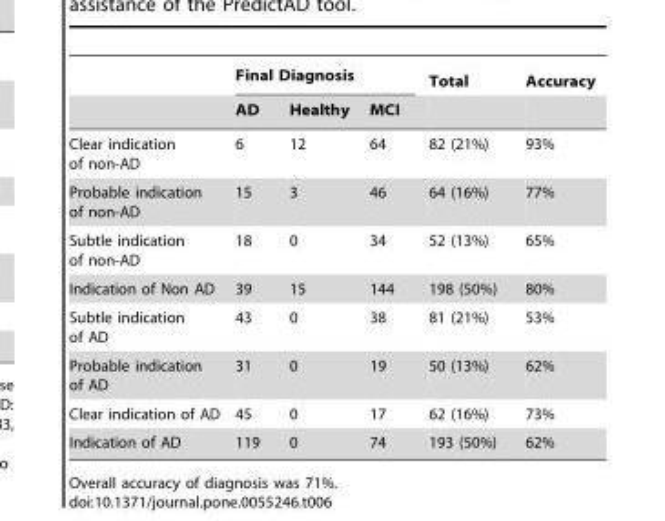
<table><thead><tr><td rowspan="2"></td><td colspan="3">Final Diagnosis</td><td rowspan="2">Total</td><td rowspan="2">Accuracy</td></tr><tr><td>AD</td><td>Healthy</td><td>MCI</td></tr></thead><tbody><tr><td>Clear indication of non-AD</td><td>6</td><td>12</td><td>64</td><td>82 (21%)</td><td>93%</td></tr><tr><td>Probable indication of non-AD</td><td>15</td><td>3</td><td>46</td><td>64 (16%)</td><td>77%</td></tr><tr><td>Subtle indication of non-AD</td><td>18</td><td>0</td><td>34</td><td>52 (13%)</td><td>65%</td></tr><tr><td>Indication of Non AD</td><td>39</td><td>15</td><td>144</td><td>198 (50%)</td><td>80%</td></tr><tr><td>Subtle indication of AD</td><td>43</td><td>0</td><td>38</td><td>81 (21%)</td><td>53%</td></tr><tr><td>Probable indication of AD</td><td>31</td><td>0</td><td>19</td><td>50 (13%)</td><td>62%</td></tr><tr><td>Clear indication of AD</td><td>45</td><td>0</td><td>17</td><td>62 (16%)</td><td>73%</td></tr><tr><td>Indication of AD</td><td>119</td><td>0</td><td>74</td><td>193 (50%)</td><td>62%</td></tr></tbody></table>